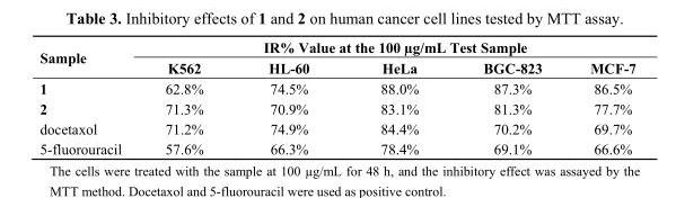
<table><thead><tr><td rowspan="2">Sample</td><td colspan="5">IR% Value at the 100 µg/mL Test Sample</td></tr><tr><td>K562</td><td>HL-60</td><td>HeLa</td><td>BGC-823</td><td>MCF-7</td></tr></thead><tbody><tr><td>1</td><td>62.8%</td><td>74.5%</td><td>88.0%</td><td>87.3%</td><td>86.5%</td></tr><tr><td>2</td><td>71.3%</td><td>70.9%</td><td>83.1%</td><td>81.3%</td><td>77.7%</td></tr><tr><td>docetaxol</td><td>71.2%</td><td>74.9%</td><td>84.4%</td><td>70.2%</td><td>69.7%</td></tr><tr><td>5-fluorouracil</td><td>57.6%</td><td>66.3%</td><td>78.4%</td><td>69.1%</td><td>66.6%</td></tr></tbody></table>